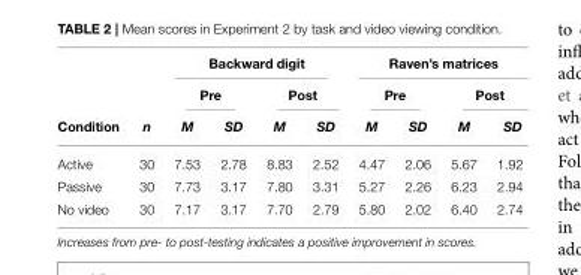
<table><thead><tr><td rowspan="3">Condition</td><td rowspan="3">n</td><td colspan="4">Backward digit</td><td colspan="4">Raven’s matrices</td></tr><tr><td colspan="2">Pre</td><td colspan="2">Post</td><td colspan="2">Pre</td><td colspan="2">Post</td></tr><tr><td>M</td><td>SD</td><td>M</td><td>SD</td><td>M</td><td>SD</td><td>M</td><td>SD</td></tr></thead><tbody><tr><td>Active</td><td>30</td><td>7.53</td><td>2.78</td><td>8.83</td><td>2.52</td><td>4.47</td><td>2.06</td><td>5.67</td><td>1.92</td></tr><tr><td>Passive</td><td>30</td><td>7.73</td><td>3.17</td><td>7.80</td><td>3.31</td><td>5.27</td><td>2.26</td><td>6.23</td><td>2.94</td></tr><tr><td>No video</td><td>30</td><td>7.17</td><td>3.17</td><td>7.70</td><td>2.79</td><td>5.80</td><td>2.02</td><td>6.40</td><td>2.74</td></tr></tbody></table>